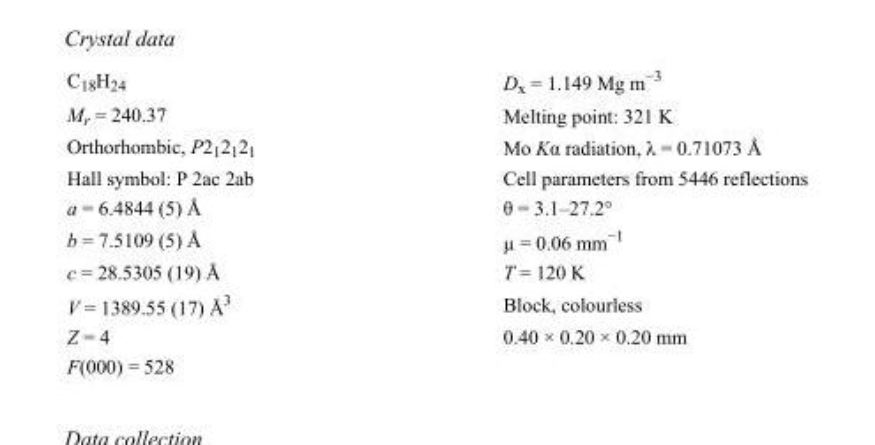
<table><tbody><tr><td>C<sub>18</sub>H<sub>24</sub></td><td>D<sub>x</sub> = 1.149 Mg m<sup>−3</sup></td></tr><tr><td>M<sub>r</sub> = 240.37</td><td>Melting point: 321 K</td></tr><tr><td>Orthorhombic, P2<sub>1</sub>2<sub>1</sub>2<sub>1</sub></td><td>Mo Kα radiation, λ = 0.71073 Å</td></tr><tr><td>Hall symbol: P 2ac 2ab</td><td>Cell parameters from 5446 reflections</td></tr><tr><td>a = 6.4844 (5) Å</td><td>θ = 3.1–27.2°</td></tr><tr><td>b = 7.5109 (5) Å</td><td>µ = 0.06 mm<sup>−1</sup></td></tr><tr><td>c = 28.5305 (19) Å</td><td>T = 120 K</td></tr><tr><td>V = 1389.55 (17) Å<sup>3</sup></td><td>Block, colourless</td></tr><tr><td>Z = 4</td><td>0.40 × 0.20 × 0.20 mm</td></tr><tr><td>F(000) = 528</td><td></td></tr></tbody></table>